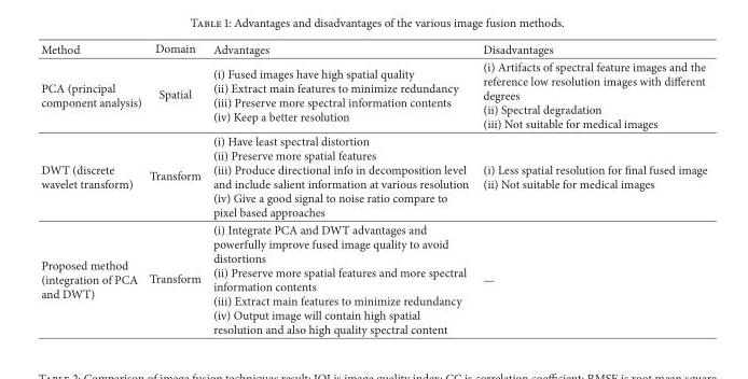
<table><thead><tr><td>Method</td><td>Domain</td><td>Advantages</td><td>Disadvantages</td></tr></thead><tbody><tr><td>PCA (principal component analysis)</td><td>Spatial</td><td>(i) Fused images have high spatial quality (ii) Extract main features to minimize redundancy (iii) Preserve more spectral information contents (iv) Keep a better resolution</td><td>(i) Artifacts of spectral feature images and the reference low resolution images with different degrees (ii) Spectral degradation (iii) Not suitable for medical images</td></tr><tr><td>DWT (discrete wavelet transform)</td><td>Transform</td><td>(i) Have least spectral distortion (ii) Preserve more spatial features (iii) Produce directional info in decomposition level and include salient information at various resolution (iv) Give a good signal to noise ratio compare to pixel based approaches</td><td>(i) Less spatial resolution for final fused image (ii) Not suitable for medical images</td></tr><tr><td>Proposed method (integration of PCA and DWT)</td><td>Transform</td><td>(i) Integrate PCA and DWT advantages and powerfully improve fused image quality to avoid distortions (ii) Preserve more spatial features and more spectral information contents (iii) Extract main features to minimize redundancy (iv) Output image will contain high spatial resolution and also high quality spectral content</td><td>—</td></tr></tbody></table>